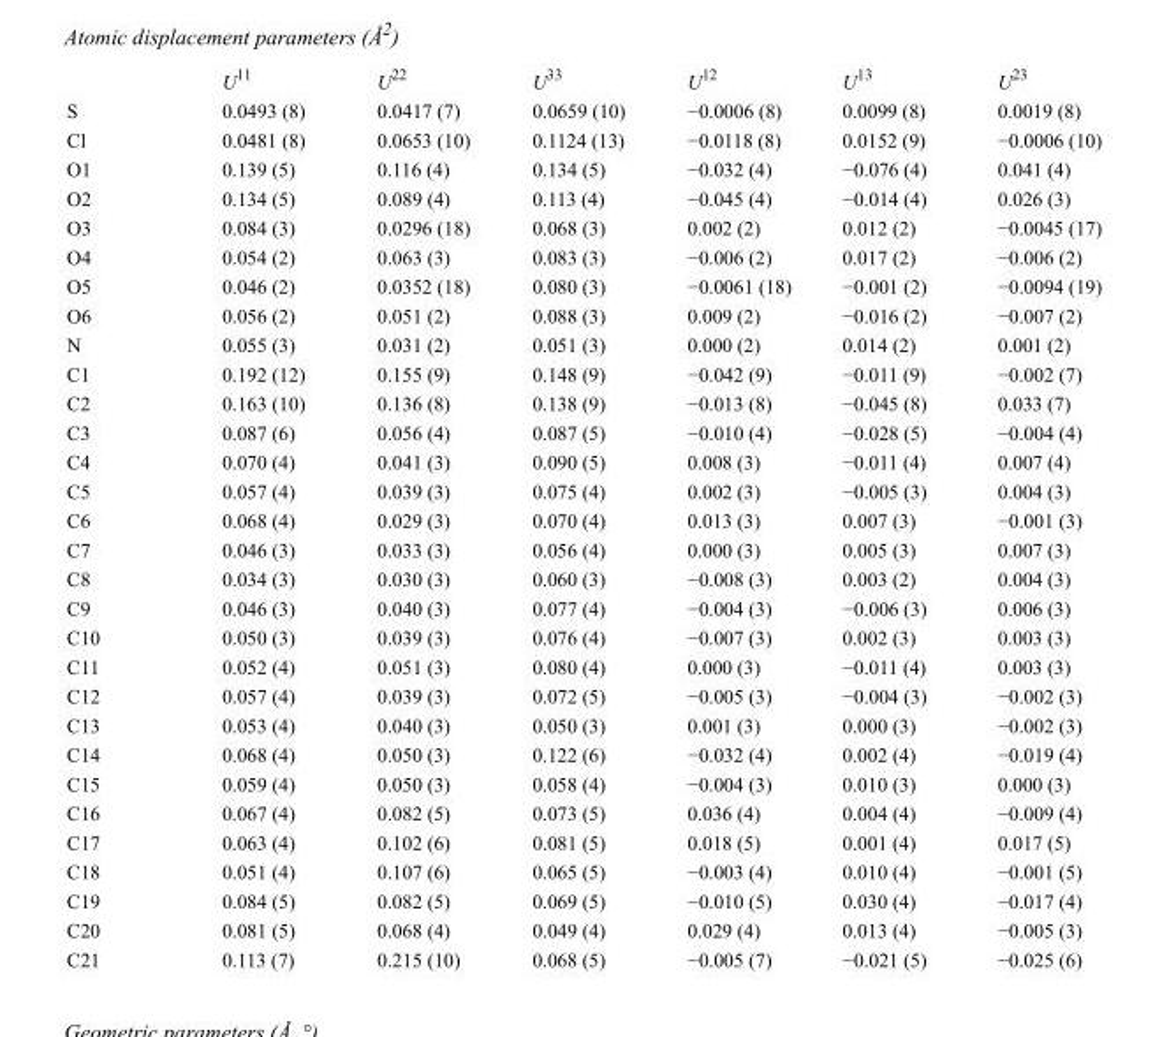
<table><thead><tr><td></td><td>U<sup>11</sup></td><td>U<sup>22</sup></td><td>U<sup>33</sup></td><td>U<sup>12</sup></td><td>U<sup>13</sup></td><td>U<sup>23</sup></td></tr></thead><tbody><tr><td>S</td><td>0.0493 (8)</td><td>0.0417 (7)</td><td>0.0659 (10)</td><td>−0.0006 (8)</td><td>0.0099 (8)</td><td>0.0019 (8)</td></tr><tr><td>Cl</td><td>0.0481 (8)</td><td>0.0653 (10)</td><td>0.1124 (13)</td><td>−0.0118 (8)</td><td>0.0152 (9)</td><td>−0.0006 (10)</td></tr><tr><td>O1</td><td>0.139 (5)</td><td>0.116 (4)</td><td>0.134 (5)</td><td>−0.032 (4)</td><td>−0.076 (4)</td><td>0.041 (4)</td></tr><tr><td>O2</td><td>0.134 (5)</td><td>0.089 (4)</td><td>0.113 (4)</td><td>−0.045 (4)</td><td>−0.014 (4)</td><td>0.026 (3)</td></tr><tr><td>O3</td><td>0.084 (3)</td><td>0.0296 (18)</td><td>0.068 (3)</td><td>0.002 (2)</td><td>0.012 (2)</td><td>−0.0045 (17)</td></tr><tr><td>O4</td><td>0.054 (2)</td><td>0.063 (3)</td><td>0.083 (3)</td><td>−0.006 (2)</td><td>0.017 (2)</td><td>−0.006 (2)</td></tr><tr><td>O5</td><td>0.046 (2)</td><td>0.0352 (18)</td><td>0.080 (3)</td><td>−0.0061 (18)</td><td>−0.001 (2)</td><td>−0.0094 (19)</td></tr><tr><td>O6</td><td>0.056 (2)</td><td>0.051 (2)</td><td>0.088 (3)</td><td>0.009 (2)</td><td>−0.016 (2)</td><td>−0.007 (2)</td></tr><tr><td>N</td><td>0.055 (3)</td><td>0.031 (2)</td><td>0.051 (3)</td><td>0.000 (2)</td><td>0.014 (2)</td><td>0.001 (2)</td></tr><tr><td>C1</td><td>0.192 (12)</td><td>0.155 (9)</td><td>0.148 (9)</td><td>−0.042 (9)</td><td>−0.011 (9)</td><td>−0.002 (7)</td></tr><tr><td>C2</td><td>0.163 (10)</td><td>0.136 (8)</td><td>0.138 (9)</td><td>−0.013 (8)</td><td>−0.045 (8)</td><td>0.033 (7)</td></tr><tr><td>C3</td><td>0.087 (6)</td><td>0.056 (4)</td><td>0.087 (5)</td><td>−0.010 (4)</td><td>−0.028 (5)</td><td>−0.004 (4)</td></tr><tr><td>C4</td><td>0.070 (4)</td><td>0.041 (3)</td><td>0.090 (5)</td><td>0.008 (3)</td><td>−0.011 (4)</td><td>0.007 (4)</td></tr><tr><td>C5</td><td>0.057 (4)</td><td>0.039 (3)</td><td>0.075 (4)</td><td>0.002 (3)</td><td>−0.005 (3)</td><td>0.004 (3)</td></tr><tr><td>C6</td><td>0.068 (4)</td><td>0.029 (3)</td><td>0.070 (4)</td><td>0.013 (3)</td><td>0.007 (3)</td><td>−0.001 (3)</td></tr><tr><td>C7</td><td>0.046 (3)</td><td>0.033 (3)</td><td>0.056 (4)</td><td>0.000 (3)</td><td>0.005 (3)</td><td>0.007 (3)</td></tr><tr><td>C8</td><td>0.034 (3)</td><td>0.030 (3)</td><td>0.060 (3)</td><td>−0.008 (3)</td><td>0.003 (2)</td><td>0.004 (3)</td></tr><tr><td>C9</td><td>0.046 (3)</td><td>0.040 (3)</td><td>0.077 (4)</td><td>−0.004 (3)</td><td>−0.006 (3)</td><td>0.006 (3)</td></tr><tr><td>C10</td><td>0.050 (3)</td><td>0.039 (3)</td><td>0.076 (4)</td><td>−0.007 (3)</td><td>0.002 (3)</td><td>0.003 (3)</td></tr><tr><td>C11</td><td>0.052 (4)</td><td>0.051 (3)</td><td>0.080 (4)</td><td>0.000 (3)</td><td>−0.011 (4)</td><td>0.003 (3)</td></tr><tr><td>C12</td><td>0.057 (4)</td><td>0.039 (3)</td><td>0.072 (5)</td><td>−0.005 (3)</td><td>−0.004 (3)</td><td>−0.002 (3)</td></tr><tr><td>C13</td><td>0.053 (4)</td><td>0.040 (3)</td><td>0.050 (3)</td><td>0.001 (3)</td><td>0.000 (3)</td><td>−0.002 (3)</td></tr><tr><td>C14</td><td>0.068 (4)</td><td>0.050 (3)</td><td>0.122 (6)</td><td>−0.032 (4)</td><td>0.002 (4)</td><td>−0.019 (4)</td></tr><tr><td>C15</td><td>0.059 (4)</td><td>0.050 (3)</td><td>0.058 (4)</td><td>−0.004 (3)</td><td>0.010 (3)</td><td>0.000 (3)</td></tr><tr><td>C16</td><td>0.067 (4)</td><td>0.082 (5)</td><td>0.073 (5)</td><td>0.036 (4)</td><td>0.004 (4)</td><td>−0.009 (4)</td></tr><tr><td>C17</td><td>0.063 (4)</td><td>0.102 (6)</td><td>0.081 (5)</td><td>0.018 (5)</td><td>0.001 (4)</td><td>0.017 (5)</td></tr><tr><td>C18</td><td>0.051 (4)</td><td>0.107 (6)</td><td>0.065 (5)</td><td>−0.003 (4)</td><td>0.010 (4)</td><td>−0.001 (5)</td></tr><tr><td>C19</td><td>0.084 (5)</td><td>0.082 (5)</td><td>0.069 (5)</td><td>−0.010 (5)</td><td>0.030 (4)</td><td>−0.017 (4)</td></tr><tr><td>C20</td><td>0.081 (5)</td><td>0.068 (4)</td><td>0.049 (4)</td><td>0.029 (4)</td><td>0.013 (4)</td><td>−0.005 (3)</td></tr><tr><td>C21</td><td>0.113 (7)</td><td>0.215 (10)</td><td>0.068 (5)</td><td>−0.005 (7)</td><td>−0.021 (5)</td><td>−0.025 (6)</td></tr></tbody></table>